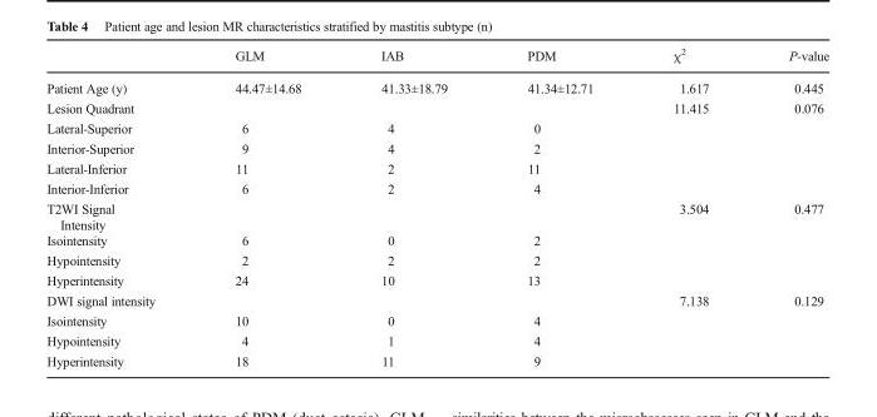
<table><thead><tr><td></td><td>GLM</td><td>IAB</td><td>PDM</td><td>χ<sup>2</sup></td><td>P-value</td></tr></thead><tbody><tr><td>Patient Age (y)</td><td>44.47±14.68</td><td>41.33±18.79</td><td>41.34±12.71</td><td>1.617</td><td>0.445</td></tr><tr><td>Lesion Quadrant</td><td></td><td></td><td></td><td>11.415</td><td>0.076</td></tr><tr><td>Lateral-Superior</td><td>6</td><td>4</td><td>0</td><td></td><td></td></tr><tr><td>Interior-Superior</td><td>9</td><td>4</td><td>2</td><td></td><td></td></tr><tr><td>Lateral-Inferior</td><td>11</td><td>2</td><td>11</td><td></td><td></td></tr><tr><td>Interior-Inferior</td><td>6</td><td>2</td><td>4</td><td></td><td></td></tr><tr><td>T2WI Signal Intensity</td><td></td><td></td><td></td><td>3.504</td><td>0.477</td></tr><tr><td>Isointensity</td><td>6</td><td>0</td><td>2</td><td></td><td></td></tr><tr><td>Hypointensity</td><td>2</td><td>2</td><td>2</td><td></td><td></td></tr><tr><td>Hyperintensity</td><td>24</td><td>10</td><td>13</td><td></td><td></td></tr><tr><td>DWI signal intensity</td><td></td><td></td><td></td><td>7.138</td><td>0.129</td></tr><tr><td>Isointensity</td><td>10</td><td>0</td><td>4</td><td></td><td></td></tr><tr><td>Hypointensity</td><td>4</td><td>1</td><td>4</td><td></td><td></td></tr><tr><td>Hyperintensity</td><td>18</td><td>11</td><td>9</td><td></td><td></td></tr></tbody></table>